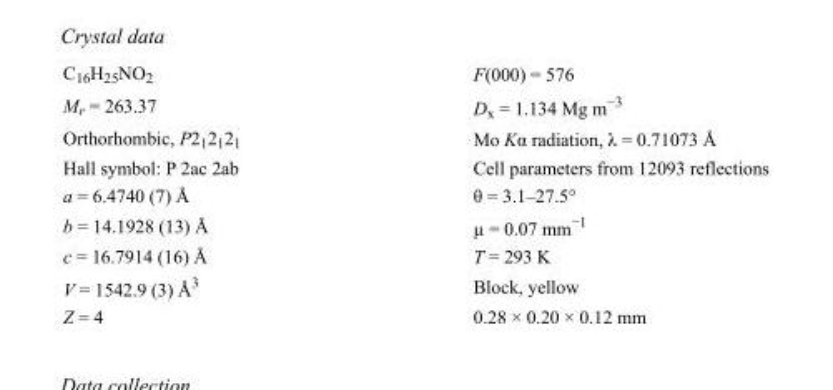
<table><tbody><tr><td>C<sub>16</sub>H<sub>25</sub>NO<sub>2</sub></td><td>F(000) = 576</td></tr><tr><td>M<sub>r</sub> = 263.37</td><td>D<sub>x</sub> = 1.134 Mg m<sup>−3</sup></td></tr><tr><td>Orthorhombic, P2<sub>1</sub>2<sub>1</sub>2<sub>1</sub></td><td>Mo Kα radiation, λ = 0.71073 Å</td></tr><tr><td>Hall symbol: P 2ac 2ab</td><td>Cell parameters from 12093 reflections</td></tr><tr><td>a = 6.4740 (7) Å</td><td>θ = 3.1–27.5°</td></tr><tr><td>b = 14.1928 (13) Å</td><td>µ = 0.07 mm<sup>−1</sup></td></tr><tr><td>c = 16.7914 (16) Å</td><td>T = 293 K</td></tr><tr><td>V = 1542.9 (3) Å<sup>3</sup></td><td>Block, yellow</td></tr><tr><td>Z = 4</td><td>0.28 × 0.20 × 0.12 mm</td></tr></tbody></table>